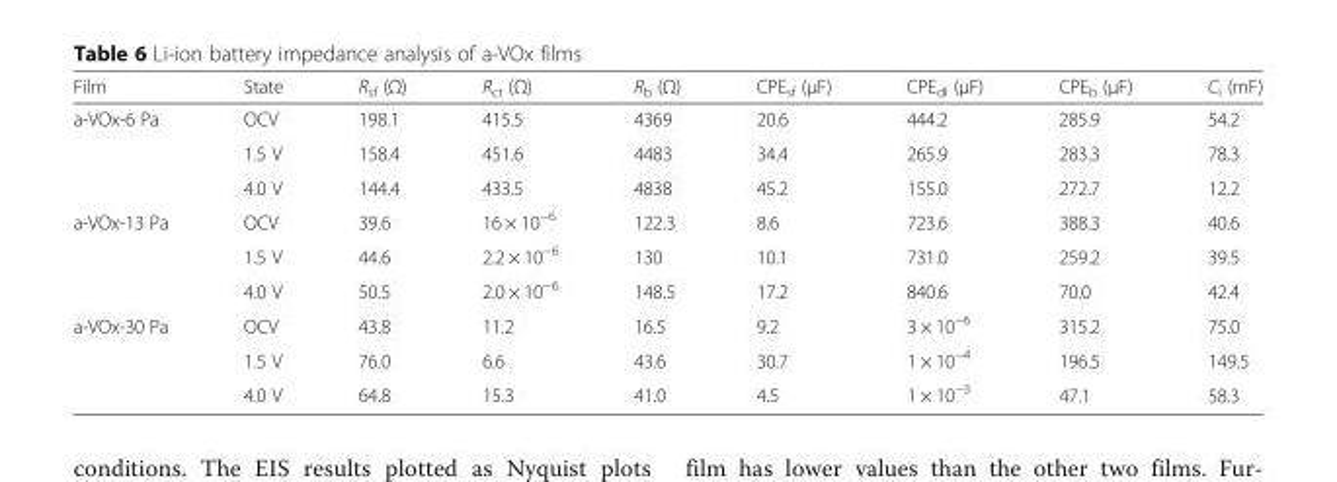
<table><thead><tr><td>Film</td><td>State</td><td>R<sub>sf</sub> (Ω)</td><td>R<sub>ct</sub> (Ω)</td><td>R<sub>b</sub> (Ω)</td><td>CPE<sub>sf</sub> (μF)</td><td>CPE<sub>dl</sub> (μF)</td><td>CPE<sub>b</sub> (μF)</td><td>C<sub>i</sub> (mF)</td></tr></thead><tbody><tr><td rowspan="3">a-VOx-6 Pa</td><td>OCV</td><td>198.1</td><td>415.5</td><td>4369</td><td>20.6</td><td>444.2</td><td>285.9</td><td>54.2</td></tr><tr><td>1.5 V</td><td>158.4</td><td>451.6</td><td>4483</td><td>34.4</td><td>265.9</td><td>283.3</td><td>78.3</td></tr><tr><td>4.0 V</td><td>144.4</td><td>433.5</td><td>4838</td><td>45.2</td><td>155.0</td><td>272.7</td><td>12.2</td></tr><tr><td rowspan="3">a-VOx-13 Pa</td><td>OCV</td><td>39.6</td><td>16 × 10<sup>−6</sup></td><td>122.3</td><td>8.6</td><td>723.6</td><td>388.3</td><td>40.6</td></tr><tr><td>1.5 V</td><td>44.6</td><td>2.2 × 10<sup>−6</sup></td><td>130</td><td>10.1</td><td>731.0</td><td>259.2</td><td>39.5</td></tr><tr><td>4.0 V</td><td>50.5</td><td>2.0 × 10<sup>−6</sup></td><td>148.5</td><td>17.2</td><td>840.6</td><td>70.0</td><td>42.4</td></tr><tr><td rowspan="3">a-VOx-30 Pa</td><td>OCV</td><td>43.8</td><td>11.2</td><td>16.5</td><td>9.2</td><td>3 × 10<sup>−6</sup></td><td>315.2</td><td>75.0</td></tr><tr><td>1.5 V</td><td>76.0</td><td>6.6</td><td>43.6</td><td>30.7</td><td>1 × 10<sup>−4</sup></td><td>196.5</td><td>149.5</td></tr><tr><td>4.0 V</td><td>64.8</td><td>15.3</td><td>41.0</td><td>4.5</td><td>1 × 10<sup>−3</sup></td><td>47.1</td><td>58.3</td></tr></tbody></table>